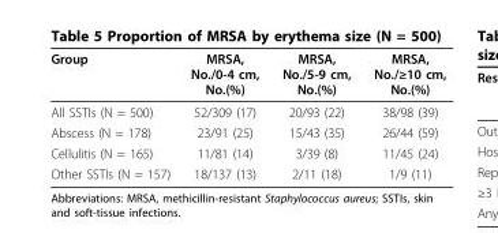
<table><thead><tr><td>Group</td><td>MRSA, No./0-4 cm, No.(%)</td><td>MRSA, No./5-9 cm, No.(%)</td><td>MRSA, No./≥10 cm, No.(%)</td></tr></thead><tbody><tr><td>All SSTIs (N = 500)</td><td>52/309 (17)</td><td>20/93 (22)</td><td>38/98 (39)</td></tr><tr><td>Abscess (N = 178)</td><td>23/91 (25)</td><td>15/43 (35)</td><td>26/44 (59)</td></tr><tr><td>Cellulitis (N = 165)</td><td>11/81 (14)</td><td>3/39 (8)</td><td>11/45 (24)</td></tr><tr><td>Other SSTIs (N = 157)</td><td>18/137 (13)</td><td>2/11 (18)</td><td>1/9 (11)</td></tr></tbody></table>